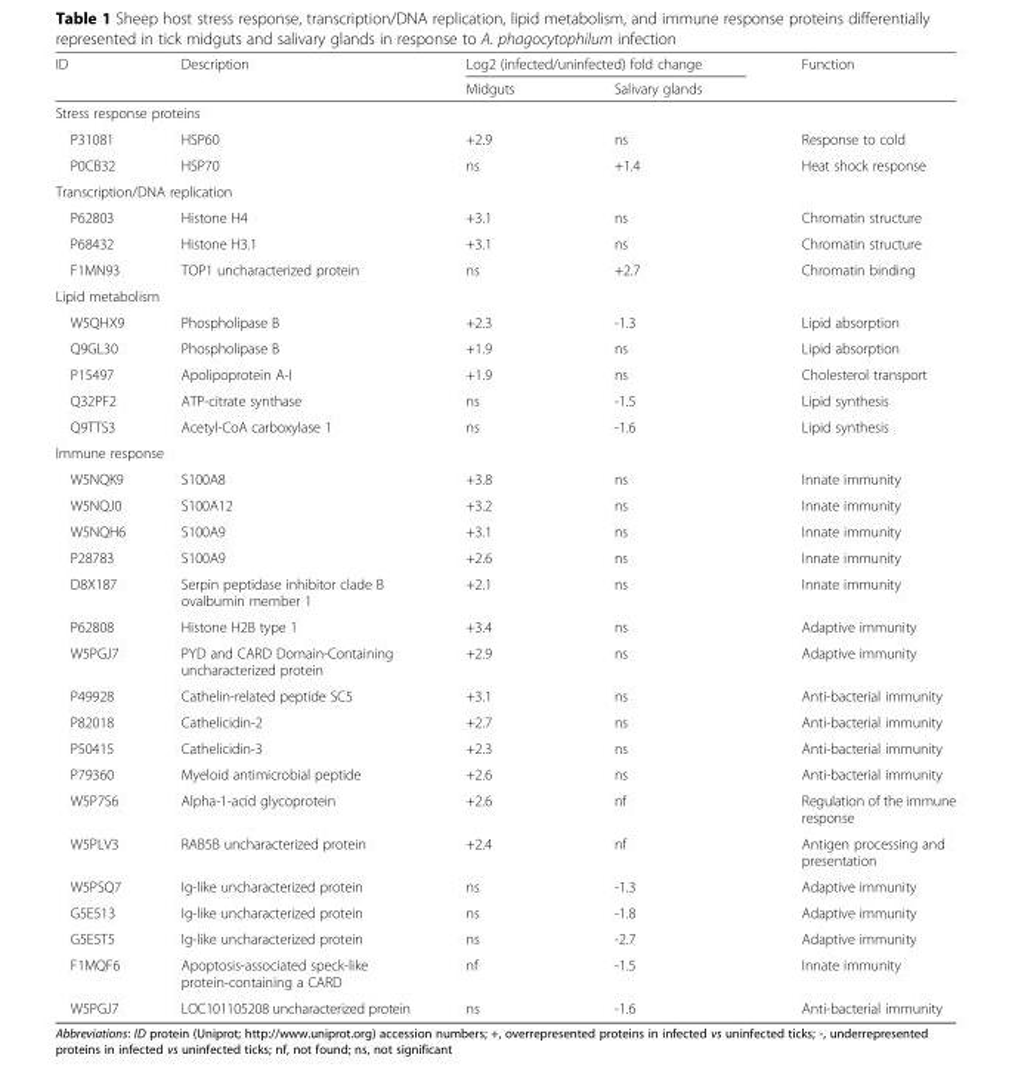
<table><thead><tr><td rowspan="2">ID</td><td rowspan="2">Description</td><td colspan="2">Log2 (infected/uninfected) fold change</td><td rowspan="2">Function</td></tr><tr><td>Midguts</td><td>Salivary glands</td></tr></thead><tbody><tr><td colspan="5">Stress response proteins</td></tr><tr><td>P31081</td><td>HSP60</td><td>+2.9</td><td>ns</td><td>Response to cold</td></tr><tr><td>P0CB32</td><td>HSP70</td><td>ns</td><td>+1.4</td><td>Heat shock response</td></tr><tr><td colspan="5">Transcription/DNA replication</td></tr><tr><td>P62803</td><td>Histone H4</td><td>+3.1</td><td>ns</td><td>Chromatin structure</td></tr><tr><td>P68432</td><td>Histone H3.1</td><td>+3.1</td><td>ns</td><td>Chromatin structure</td></tr><tr><td>F1MN93</td><td>TOP1 uncharacterized protein</td><td>ns</td><td>+2.7</td><td>Chromatin binding</td></tr><tr><td colspan="5">Lipid metabolism</td></tr><tr><td>W5QHX9</td><td>Phospholipase B</td><td>+2.3</td><td>-1.3</td><td>Lipid absorption</td></tr><tr><td>Q9GL30</td><td>Phospholipase B</td><td>+1.9</td><td>ns</td><td>Lipid absorption</td></tr><tr><td>P15497</td><td>Apolipoprotein A-I</td><td>+1.9</td><td>ns</td><td>Cholesterol transport</td></tr><tr><td>Q32PF2</td><td>ATP-citrate synthase</td><td>ns</td><td>-1.5</td><td>Lipid synthesis</td></tr><tr><td>Q9TTS3</td><td>Acetyl-CoA carboxylase 1</td><td>ns</td><td>-1.6</td><td>Lipid synthesis</td></tr><tr><td colspan="5">Immune response</td></tr><tr><td>W5NQK9</td><td>S100A8</td><td>+3.8</td><td>ns</td><td>Innate immunity</td></tr><tr><td>W5NQJ0</td><td>S100A12</td><td>+3.2</td><td>ns</td><td>Innate immunity</td></tr><tr><td>W5NQH6</td><td>S100A9</td><td>+3.1</td><td>ns</td><td>Innate immunity</td></tr><tr><td>P28783</td><td>S100A9</td><td>+2.6</td><td>ns</td><td>Innate immunity</td></tr><tr><td>D8X187</td><td>Serpin peptidase inhibitor clade B ovalbumin member 1</td><td>+2.1</td><td>ns</td><td>Innate immunity</td></tr><tr><td>P62808</td><td>Histone H2B type 1</td><td>+3.4</td><td>ns</td><td>Adaptive immunity</td></tr><tr><td>W5PGJ7</td><td>PYD and CARD Domain-Containing uncharacterized protein</td><td>+2.9</td><td>ns</td><td>Adaptive immunity</td></tr><tr><td>P49928</td><td>Cathelin-related peptide SC5</td><td>+3.1</td><td>ns</td><td>Anti-bacterial immunity</td></tr><tr><td>P82018</td><td>Cathelicidin-2</td><td>+2.7</td><td>ns</td><td>Anti-bacterial immunity</td></tr><tr><td>P50415</td><td>Cathelicidin-3</td><td>+2.3</td><td>ns</td><td>Anti-bacterial immunity</td></tr><tr><td>P79360</td><td>Myeloid antimicrobial peptide</td><td>+2.6</td><td>ns</td><td>Anti-bacterial immunity</td></tr><tr><td>W5P7S6</td><td>Alpha-1-acid glycoprotein</td><td>+2.6</td><td>nf</td><td>Regulation of the immune response</td></tr><tr><td>W5PLV3</td><td>RAB5B uncharacterized protein</td><td>+2.4</td><td>nf</td><td>Antigen processing and presentation</td></tr><tr><td>W5PSQ7</td><td>Ig-like uncharacterized protein</td><td>ns</td><td>-1.3</td><td>Adaptive immunity</td></tr><tr><td>G5E513</td><td>Ig-like uncharacterized protein</td><td>ns</td><td>-1.8</td><td>Adaptive immunity</td></tr><tr><td>G5E5T5</td><td>Ig-like uncharacterized protein</td><td>ns</td><td>-2.7</td><td>Adaptive immunity</td></tr><tr><td>F1MQF6</td><td>Apoptosis-associated speck-like protein-containing a CARD</td><td>nf</td><td>-1.5</td><td>Innate immunity</td></tr><tr><td>W5PGJ7</td><td>LOC101105208 uncharacterized protein</td><td>ns</td><td>-1.6</td><td>Anti-bacterial immunity</td></tr></tbody></table>